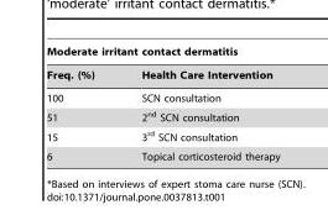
<table><thead><tr><td colspan="2">Moderate irritant contact dermatitis</td></tr><tr><td>Freq. (%)</td><td>Health Care Intervention</td></tr></thead><tbody><tr><td>100</td><td>SCN consultation</td></tr><tr><td>51</td><td>2<sup>nd</sup> SCN consultation</td></tr><tr><td>15</td><td>3<sup>rd</sup> SCN consultation</td></tr><tr><td>6</td><td>Topical corticosteroid therapy</td></tr></tbody></table>